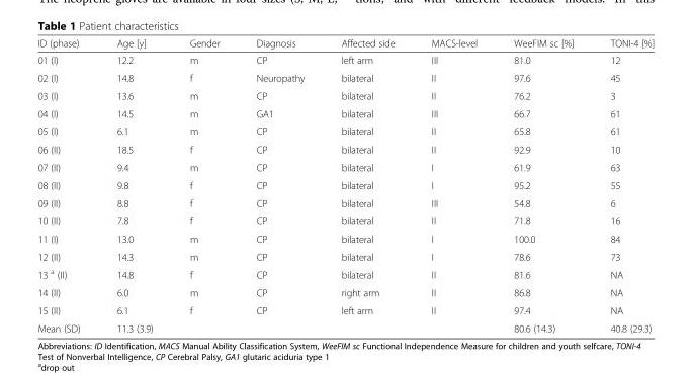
<table><thead><tr><td>ID (phase)</td><td>Age [y]</td><td>Gender</td><td>Diagnosis</td><td>Affected side</td><td>MACS-level</td><td>WeeFIM sc [%]</td><td>TONI-4 [%]</td></tr></thead><tbody><tr><td>01 (I)</td><td>12.2</td><td>m</td><td>CP</td><td>left arm</td><td>III</td><td>81.0</td><td>12</td></tr><tr><td>02 (I)</td><td>14.8</td><td>f</td><td>Neuropathy</td><td>bilateral</td><td>II</td><td>97.6</td><td>45</td></tr><tr><td>03 (I)</td><td>13.6</td><td>m</td><td>CP</td><td>bilateral</td><td>II</td><td>76.2</td><td>3</td></tr><tr><td>04 (I)</td><td>14.5</td><td>m</td><td>GA1</td><td>bilateral</td><td>III</td><td>66.7</td><td>61</td></tr><tr><td>05 (I)</td><td>6.1</td><td>m</td><td>CP</td><td>bilateral</td><td>II</td><td>65.8</td><td>61</td></tr><tr><td>06 (II)</td><td>18.5</td><td>f</td><td>CP</td><td>bilateral</td><td>II</td><td>92.9</td><td>10</td></tr><tr><td>07 (II)</td><td>9.4</td><td>m</td><td>CP</td><td>bilateral</td><td>I</td><td>61.9</td><td>63</td></tr><tr><td>08 (II)</td><td>9.8</td><td>f</td><td>CP</td><td>bilateral</td><td>I</td><td>95.2</td><td>55</td></tr><tr><td>09 (II)</td><td>8.8</td><td>f</td><td>CP</td><td>bilateral</td><td>III</td><td>54.8</td><td>6</td></tr><tr><td>10 (II)</td><td>7.8</td><td>f</td><td>CP</td><td>bilateral</td><td>II</td><td>71.8</td><td>16</td></tr><tr><td>11 (I)</td><td>13.0</td><td>m</td><td>CP</td><td>bilateral</td><td>I</td><td>100.0</td><td>84</td></tr><tr><td>12 (II)</td><td>14.3</td><td>m</td><td>CP</td><td>bilateral</td><td>I</td><td>78.6</td><td>73</td></tr><tr><td>13 <sup>a</sup> (II)</td><td>14.8</td><td>f</td><td>CP</td><td>bilateral</td><td>II</td><td>81.6</td><td>NA</td></tr><tr><td>14 (II)</td><td>6.0</td><td>m</td><td>CP</td><td>right arm</td><td>II</td><td>86.8</td><td>NA</td></tr><tr><td>15 (II)</td><td>6.1</td><td>f</td><td>CP</td><td>left arm</td><td>II</td><td>97.4</td><td>NA</td></tr><tr><td>Mean (SD)</td><td>11.3 (3.9)</td><td></td><td></td><td></td><td></td><td>80.6 (14.3)</td><td>40.8 (29.3)</td></tr></tbody></table>